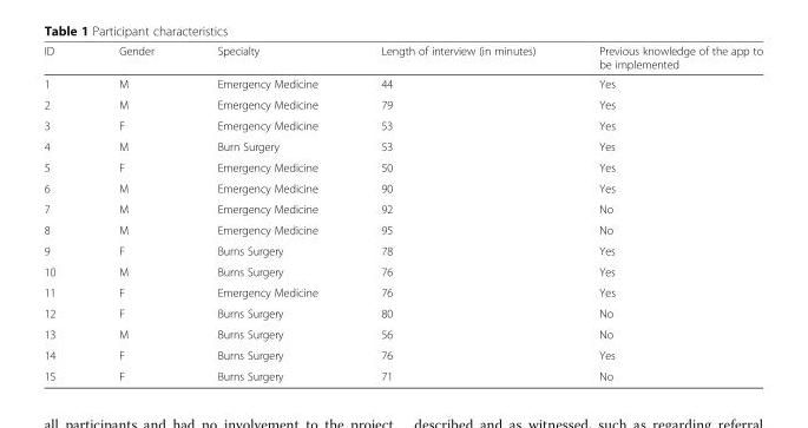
<table><thead><tr><td>ID</td><td>Gender</td><td>Specialty</td><td>Length of interview (in minutes)</td><td>Previous knowledge of the app to be implemented</td></tr></thead><tbody><tr><td>1</td><td>M</td><td>Emergency Medicine</td><td>44</td><td>Yes</td></tr><tr><td>2</td><td>M</td><td>Emergency Medicine</td><td>79</td><td>Yes</td></tr><tr><td>3</td><td>F</td><td>Emergency Medicine</td><td>53</td><td>Yes</td></tr><tr><td>4</td><td>M</td><td>Burn Surgery</td><td>53</td><td>Yes</td></tr><tr><td>5</td><td>F</td><td>Emergency Medicine</td><td>50</td><td>Yes</td></tr><tr><td>6</td><td>M</td><td>Emergency Medicine</td><td>90</td><td>Yes</td></tr><tr><td>7</td><td>M</td><td>Emergency Medicine</td><td>92</td><td>No</td></tr><tr><td>8</td><td>M</td><td>Emergency Medicine</td><td>95</td><td>No</td></tr><tr><td>9</td><td>F</td><td>Burns Surgery</td><td>78</td><td>Yes</td></tr><tr><td>10</td><td>M</td><td>Burns Surgery</td><td>76</td><td>Yes</td></tr><tr><td>11</td><td>F</td><td>Emergency Medicine</td><td>76</td><td>Yes</td></tr><tr><td>12</td><td>F</td><td>Burns Surgery</td><td>80</td><td>No</td></tr><tr><td>13</td><td>M</td><td>Burns Surgery</td><td>56</td><td>No</td></tr><tr><td>14</td><td>F</td><td>Burns Surgery</td><td>76</td><td>Yes</td></tr><tr><td>15</td><td>F</td><td>Burns Surgery</td><td>71</td><td>No</td></tr></tbody></table>